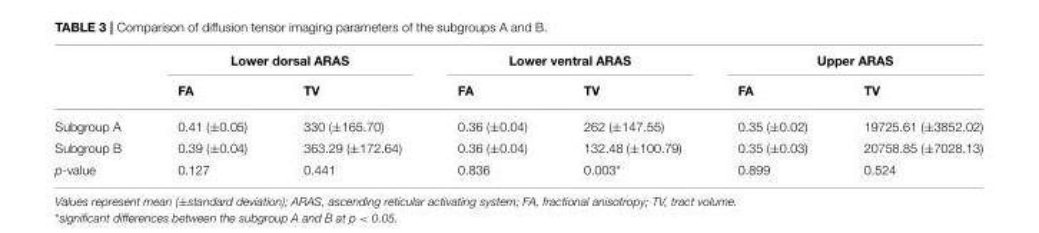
<table><thead><tr><td rowspan="2"></td><td colspan="2">Lower dorsal ARAS</td><td colspan="2">Lower ventral ARAS</td><td colspan="2">Upper ARAS</td></tr><tr><td>FA</td><td>TV</td><td>FA</td><td>TV</td><td>FA</td><td>TV</td></tr></thead><tbody><tr><td>Subgroup A</td><td>0.41 (±0.05)</td><td>330 (±165.70)</td><td>0.36 (±0.04)</td><td>262 (±147.55)</td><td>0.35 (±0.02)</td><td>19725.61 (±3852.02)</td></tr><tr><td>Subgroup B</td><td>0.39 (±0.04)</td><td>363.29 (±172.64)</td><td>0.36 (±0.04)</td><td>132.48 (±100.79)</td><td>0.35 (±0.03)</td><td>20758.85 (±7028.13)</td></tr><tr><td>p-value</td><td>0.127</td><td>0.441</td><td>0.836</td><td>0.003*</td><td>0.899</td><td>0.524</td></tr></tbody></table>